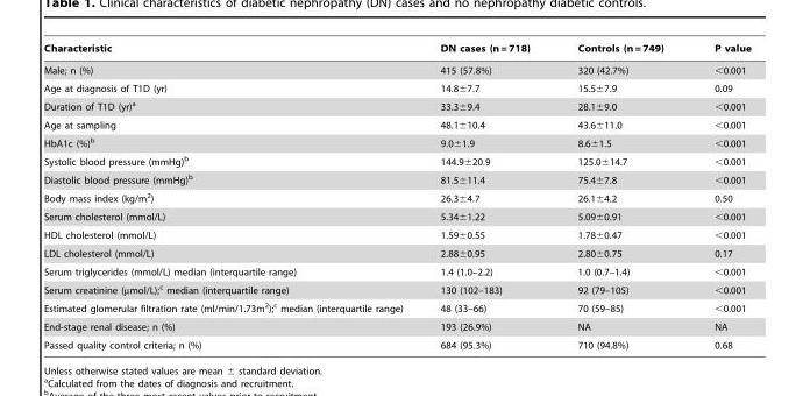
<table><thead><tr><td>Characteristic</td><td>DN cases (n = 718)</td><td>Controls (n = 749)</td><td>P value</td></tr></thead><tbody><tr><td>Male; n (%)</td><td>415 (57.8%)</td><td>320 (42.7%)</td><td>&lt;0.001</td></tr><tr><td>Age at diagnosis of T1D (yr)</td><td>14.8±7.7</td><td>15.5±7.9</td><td>0.09</td></tr><tr><td>Duration of T1D (yr)<sup>a</sup></td><td>33.3±9.4</td><td>28.1±9.0</td><td>&lt;0.001</td></tr><tr><td>Age at sampling</td><td>48.1±10.4</td><td>43.6±11.0</td><td>&lt;0.001</td></tr><tr><td>HbA1c (%)<sup>b</sup></td><td>9.0±1.9</td><td>8.6±1.5</td><td>&lt;0.001</td></tr><tr><td>Systolic blood pressure (mmHg)<sup>b</sup></td><td>144.9±20.9</td><td>125.0±14.7</td><td>&lt;0.001</td></tr><tr><td>Diastolic blood pressure (mmHg)<sup>b</sup></td><td>81.5±11.4</td><td>75.4±7.8</td><td>&lt;0.001</td></tr><tr><td>Body mass index (kg/m<sup>2</sup>)</td><td>26.3±4.7</td><td>26.1±4.2</td><td>0.50</td></tr><tr><td>Serum cholesterol (mmol/L)</td><td>5.34±1.22</td><td>5.09±0.91</td><td>&lt;0.001</td></tr><tr><td>HDL cholesterol (mmol/L)</td><td>1.59±0.55</td><td>1.78±0.47</td><td>&lt;0.001</td></tr><tr><td>LDL cholesterol (mmol/L)</td><td>2.88±0.95</td><td>2.80±0.75</td><td>0.17</td></tr><tr><td>Serum triglycerides (mmol/L) median (interquartile range)</td><td>1.4 (1.0–2.2)</td><td>1.0 (0.7–1.4)</td><td>&lt;0.001</td></tr><tr><td>Serum creatinine (µmol/L);<sup>c</sup> median (interquartile range)</td><td>130 (102–183)</td><td>92 (79–105)</td><td>&lt;0.001</td></tr><tr><td>Estimated glomerular filtration rate (ml/min/1.73m<sup>2</sup>);<sup>c</sup> median (interquartile range)</td><td>48 (33–66)</td><td>70 (59–85)</td><td>&lt;0.001</td></tr><tr><td>End-stage renal disease; n (%)</td><td>193 (26.9%)</td><td>NA</td><td>NA</td></tr><tr><td>Passed quality control criteria; n (%)</td><td>684 (95.3%)</td><td>710 (94.8%)</td><td>0.68</td></tr></tbody></table>